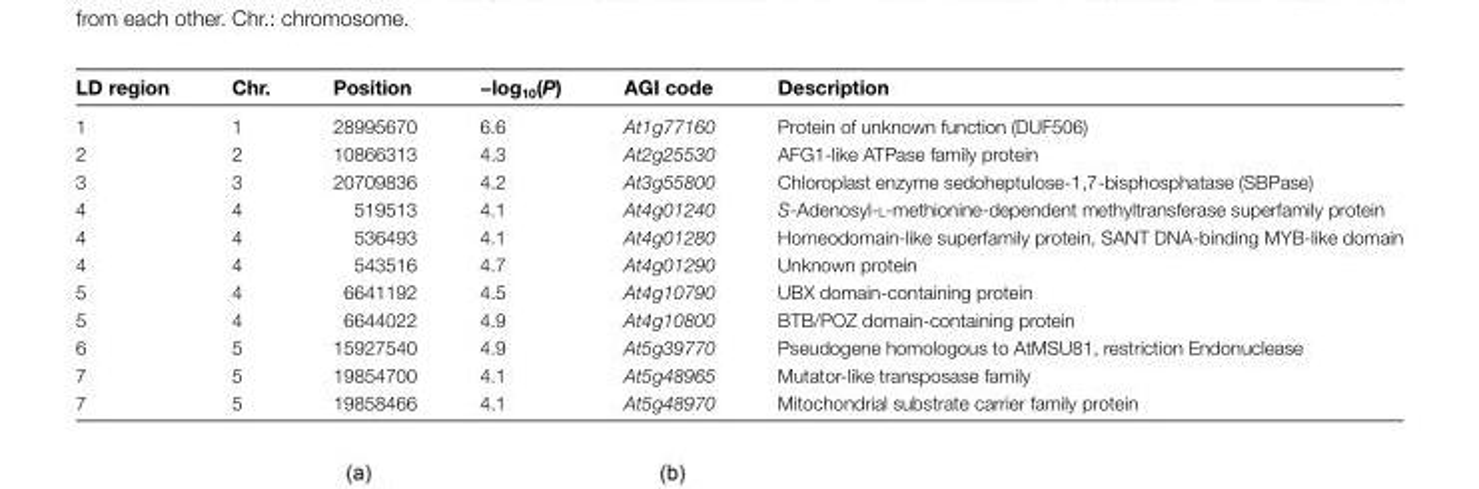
<table><thead><tr><td>LD region</td><td>Chr.</td><td>Position</td><td>−log<sub>10</sub>(P)</td><td>AGI code</td><td>Description</td></tr></thead><tbody><tr><td>1</td><td>1</td><td>28995670</td><td>6.6</td><td>At1g77160</td><td>Protein of unknown function (DUF506)</td></tr><tr><td>2</td><td>2</td><td>10866313</td><td>4.3</td><td>At2g25530</td><td>AFG1-like ATPase family protein</td></tr><tr><td>3</td><td>3</td><td>20709836</td><td>4.2</td><td>At3g55800</td><td>Chloroplast enzyme sedoheptulose-1,7-bisphosphatase (SBPase)</td></tr><tr><td>4</td><td>4</td><td>519513</td><td>4.1</td><td>At4g01240</td><td>S-Adenosyl-l-methionine-dependent methyltransferase superfamily protein</td></tr><tr><td>4</td><td>4</td><td>536493</td><td>4.1</td><td>At4g01280</td><td>Homeodomain-like superfamily protein, SANT DNA-binding MYB-like domain</td></tr><tr><td>4</td><td>4</td><td>543516</td><td>4.7</td><td>At4g01290</td><td>Unknown protein</td></tr><tr><td>5</td><td>4</td><td>6641192</td><td>4.5</td><td>At4g10790</td><td>UBX domain-containing protein</td></tr><tr><td>5</td><td>4</td><td>6644022</td><td>4.9</td><td>At4g10800</td><td>BTB/POZ domain-containing protein</td></tr><tr><td>6</td><td>5</td><td>15927540</td><td>4.9</td><td>At5g39770</td><td>Pseudogene homologous to AtMSU81, restriction Endonuclease</td></tr><tr><td>7</td><td>5</td><td>19854700</td><td>4.1</td><td>At5g48965</td><td>Mutator-like transposase family</td></tr><tr><td>7</td><td>5</td><td>19858466</td><td>4.1</td><td>At5g48970</td><td>Mitochondrial substrate carrier family protein</td></tr></tbody></table>